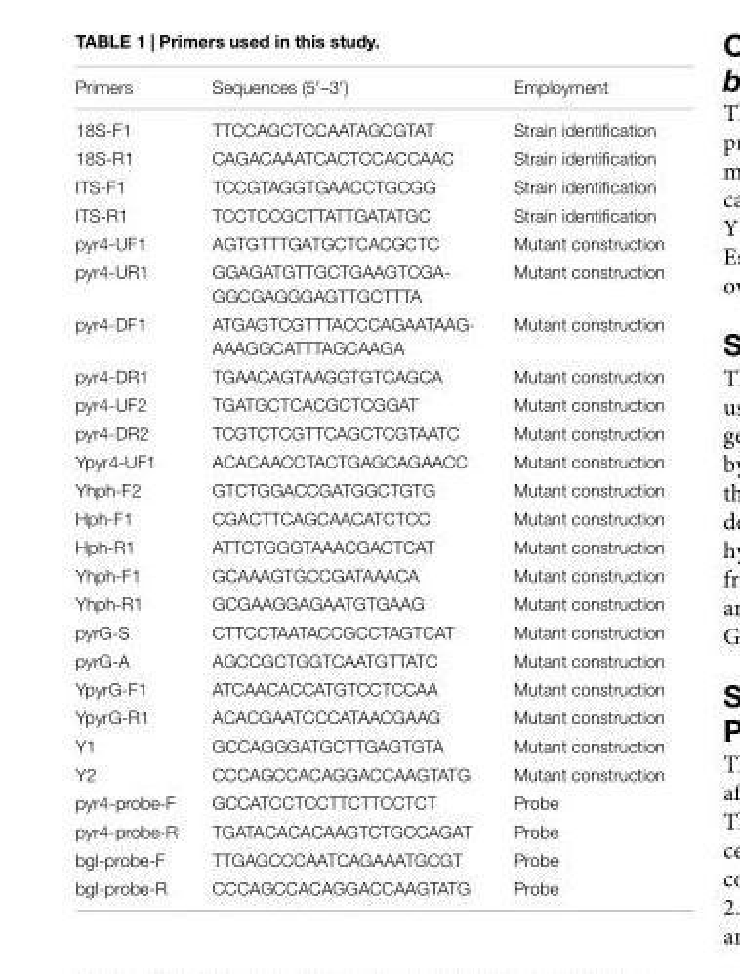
<table><thead><tr><td>Primers</td><td>Sequences (5′–3′)</td><td>Employment</td></tr></thead><tbody><tr><td>18S-F1</td><td>TTCCAGCTCCAATAGCGTAT</td><td>Strain identification</td></tr><tr><td>18S-R1</td><td>CAGACAAATCACTCCACCAAC</td><td>Strain identification</td></tr><tr><td>ITS-F1</td><td>TCCGTAGGTGAACCTGCGG</td><td>Strain identification</td></tr><tr><td>ITS-R1</td><td>TCCTCCGCTTATTGATATGC</td><td>Strain identification</td></tr><tr><td>pyr4-UF1</td><td>AGTGTTTGATGCTCACGCTC</td><td>Mutant construction</td></tr><tr><td>pyr4-UR1</td><td>GGAGATGTTGCTGAAGTCGA- GGCGAGGGAGTTGCTTTA</td><td>Mutant construction</td></tr><tr><td>pyr4-DF1</td><td>ATGAGTCGTTTACCCAGAATAAG- AAAGGCATTTAGCAAGA</td><td>Mutant construction</td></tr><tr><td>pyr4-DR1</td><td>TGAACAGTAAGGTGTCAGCA</td><td>Mutant construction</td></tr><tr><td>pyr4-UF2</td><td>TGATGCTCACGCTCGGAT</td><td>Mutant construction</td></tr><tr><td>pyr4-DR2</td><td>TCGTCTCGTTCAGCTCGTAATC</td><td>Mutant construction</td></tr><tr><td>Ypyr4-UF1</td><td>ACACAACCTACTGAGCAGAACC</td><td>Mutant construction</td></tr><tr><td>Yhph-F2</td><td>GTCTGGACCGATGGCTGTG</td><td>Mutant construction</td></tr><tr><td>Hph-F1</td><td>CGACTTCAGCAACATCTCC</td><td>Mutant construction</td></tr><tr><td>Hph-R1</td><td>ATTCTGGGTAAACGACTCAT</td><td>Mutant construction</td></tr><tr><td>Yhph-F1</td><td>GCAAAGTGCCGATAAACA</td><td>Mutant construction</td></tr><tr><td>Yhph-R1</td><td>GCGAAGGAGAATGTGAAG</td><td>Mutant construction</td></tr><tr><td>pyrG-S</td><td>CTTCCTAATACCGCCTAGTCAT</td><td>Mutant construction</td></tr><tr><td>pyrG-A</td><td>AGCCGCTGGTCAATGTTATC</td><td>Mutant construction</td></tr><tr><td>YpyrG-F1</td><td>ATCAACACCATGTCCTCCAA</td><td>Mutant construction</td></tr><tr><td>YpyrG-R1</td><td>ACACGAATCCCATAACGAAG</td><td>Mutant construction</td></tr><tr><td>Y1</td><td>GCCAGGGATGCTTGAGTGTA</td><td>Mutant construction</td></tr><tr><td>Y2</td><td>CCCAGCCACAGGACCAAGTATG</td><td>Mutant construction</td></tr><tr><td>pyr4-probe-F</td><td>GCCATCCTCCTTCTTCCTCT</td><td>Probe</td></tr><tr><td>pyr4-probe-R</td><td>TGATACACACAAGTCTGCCAGAT</td><td>Probe</td></tr><tr><td>bgl-probe-F</td><td>TTGAGCCCAATCAGAAATGCGT</td><td>Probe</td></tr><tr><td>bgl-probe-R</td><td>CCCAGCCACAGGACCAAGTATG</td><td>Probe</td></tr></tbody></table>